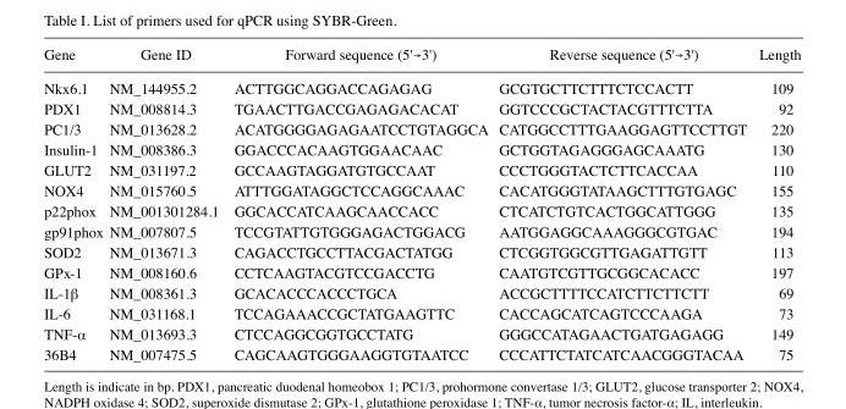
<table><thead><tr><td>Gene</td><td>Gene ID</td><td>Forward sequence (5&#x27;→3&#x27;)</td><td>Reverse sequence (5&#x27;→3&#x27;)</td><td>Length</td></tr></thead><tbody><tr><td>Nkx6.1</td><td>NM_144955.2</td><td>ACTTGGCAGGACCAGAGAG</td><td>GCGTGCTTCTTTCTCCACTT</td><td>109</td></tr><tr><td>PDX1</td><td>NM_008814.3</td><td>TGAACTTGACCGAGAGACACAT</td><td>GGTCCCGCTACTACGTTTCTTA</td><td>92</td></tr><tr><td>PC1/3</td><td>NM_013628.2</td><td>ACATGGGGAGAGAATCCTGTAGGCA</td><td>CATGGCCTTTGAAGGAGTTCCTTGT</td><td>220</td></tr><tr><td>Insulin-1</td><td>NM_008386.3</td><td>GGACCCACAAGTGGAACAAC</td><td>GCTGGTAGAGGGAGCAAATG</td><td>130</td></tr><tr><td>GLUT2</td><td>NM_031197.2</td><td>GCCAAGTAGGATGTGCCAAT</td><td>CCCTGGGTACTCTTCACCAA</td><td>110</td></tr><tr><td>NOX4</td><td>NM_015760.5</td><td>ATTTGGATAGGCTCCAGGCAAAC</td><td>CACATGGGTATAAGCTTTGTGAGC</td><td>155</td></tr><tr><td>p22phox</td><td>NM_001301284.1</td><td>GGCACCATCAAGCAACCACC</td><td>CTCATCTGTCACTGGCATTGGG</td><td>135</td></tr><tr><td>gp91phox</td><td>NM_007807.5</td><td>TCCGTATTGTGGGAGACTGGACG</td><td>AATGGAGGCAAAGGGCGTGAC</td><td>194</td></tr><tr><td>SOD2</td><td>NM_013671.3</td><td>CAGACCTGCCTTACGACTATGG</td><td>CTCGGTGGCGTTGAGATTGTT</td><td>113</td></tr><tr><td>GPx-1</td><td>NM_008160.6</td><td>CCTCAAGTACGTCCGACCTG</td><td>CAATGTCGTTGCGGCACACC</td><td>197</td></tr><tr><td>IL-1β</td><td>NM_008361.3</td><td>GCACACCCACCCTGCA</td><td>ACCGCTTTTCCATCTTCTTCTT</td><td>69</td></tr><tr><td>IL-6</td><td>NM_031168.1</td><td>TCCAGAAACCGCTATGAAGTTC</td><td>CACCAGCATCAGTCCCAAGA</td><td>73</td></tr><tr><td>TNF-α</td><td>NM_013693.3</td><td>CTCCAGGCGGTGCCTATG</td><td>GGGCCATAGAACTGATGAGAGG</td><td>149</td></tr><tr><td>36B4</td><td>NM_007475.5</td><td>CAGCAAGTGGGAAGGTGTAATCC</td><td>CCCATTCTATCATCAACGGGTACAA</td><td>75</td></tr></tbody></table>